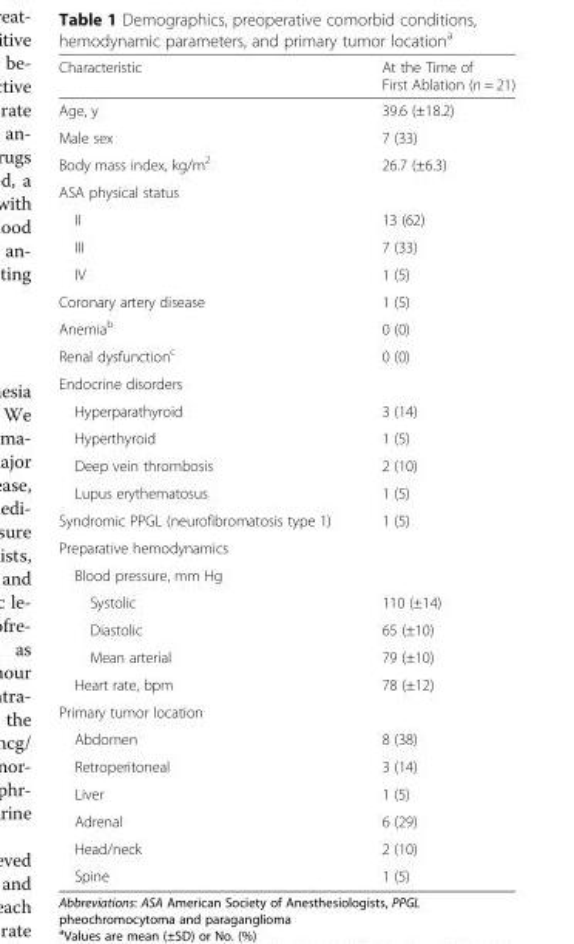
<table><thead><tr><td>Characteristic</td><td>At the Time of First Ablation (n = 21)</td></tr></thead><tbody><tr><td>Age, y</td><td>39.6 (±18.2)</td></tr><tr><td>Male sex</td><td>7 (33)</td></tr><tr><td>Body mass index, kg/m<sup>2</sup></td><td>26.7 (±6.3)</td></tr><tr><td colspan="2">ASA physical status</td></tr><tr><td>II</td><td>13 (62)</td></tr><tr><td>III</td><td>7 (33)</td></tr><tr><td>IV</td><td>1 (5)</td></tr><tr><td>Coronary artery disease</td><td>1 (5)</td></tr><tr><td>Anemia<sup>b</sup></td><td>0 (0)</td></tr><tr><td>Renal dysfunction<sup>c</sup></td><td>0 (0)</td></tr><tr><td colspan="2">Endocrine disorders</td></tr><tr><td>Hyperparathyroid</td><td>3 (14)</td></tr><tr><td>Hyperthyroid</td><td>1 (5)</td></tr><tr><td>Deep vein thrombosis</td><td>2 (10)</td></tr><tr><td>Lupus erythematosus</td><td>1 (5)</td></tr><tr><td>Syndromic PPGL (neurofibromatosis type 1)</td><td>1 (5)</td></tr><tr><td colspan="2">Preparative hemodynamics</td></tr><tr><td colspan="2">Blood pressure, mm Hg</td></tr><tr><td>Systolic</td><td>110 (±14)</td></tr><tr><td>Diastolic</td><td>65 (±10)</td></tr><tr><td>Mean arterial</td><td>79 (±10)</td></tr><tr><td>Heart rate, bpm</td><td>78 (±12)</td></tr><tr><td colspan="2">Primary tumor location</td></tr><tr><td>Abdomen</td><td>8 (38)</td></tr><tr><td>Retroperitoneal</td><td>3 (14)</td></tr><tr><td>Liver</td><td>1 (5)</td></tr><tr><td>Adrenal</td><td>6 (29)</td></tr><tr><td>Head/neck</td><td>2 (10)</td></tr><tr><td>Spine</td><td>1 (5)</td></tr></tbody></table>